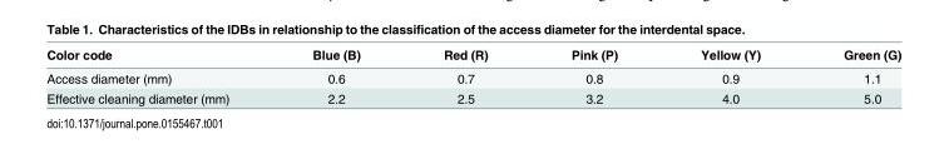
<table><thead><tr><td>Color code</td><td>Blue (B)</td><td>Red (R)</td><td>Pink (P)</td><td>Yellow (Y)</td><td>Green (G)</td></tr></thead><tbody><tr><td>Access diameter (mm)</td><td>0.6</td><td>0.7</td><td>0.8</td><td>0.9</td><td>1.1</td></tr><tr><td>Effective cleaning diameter (mm)</td><td>2.2</td><td>2.5</td><td>3.2</td><td>4.0</td><td>5.0</td></tr></tbody></table>